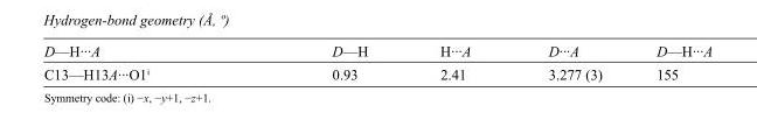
<table><tbody><tr><td>D—H···A</td><td>D—H</td><td>H···A</td><td>D···A</td><td>D—H···A</td></tr><tr><td>C13—H13A···O1<sup>i</sup></td><td>0.93</td><td>2.41</td><td>3.277 (3)</td><td>155</td></tr></tbody></table>